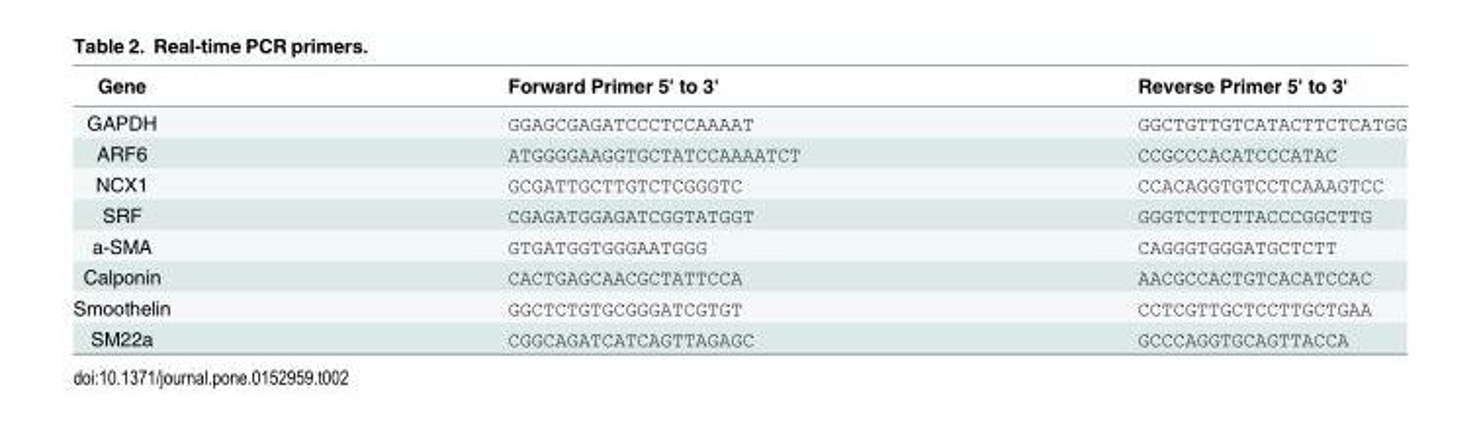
<table><thead><tr><td>Gene</td><td>Forward Primer 5&#x27; to 3&#x27;</td><td>Reverse Primer 5&#x27; to 3&#x27;</td></tr></thead><tbody><tr><td>GAPDH</td><td>GGAGCGAGATCCCTCCAAAAT</td><td>GGCTGTTGTCATACTTCTCATGG</td></tr><tr><td>ARF6</td><td>ATGGGGAAGGTGCTATCCAAAATCT</td><td>CCGCCCACATCCCATAC</td></tr><tr><td>NCX1</td><td>GCGATTGCTTGTCTCGGGTC</td><td>CCACAGGTGTCCTCAAAGTCC</td></tr><tr><td>SRF</td><td>CGAGATGGAGATCGGTATGGT</td><td>GGGTCTTCTTACCCGGCTTG</td></tr><tr><td>a-SMA</td><td>GTGATGGTGGGAATGGG</td><td>CAGGGTGGGATGCTCTT</td></tr><tr><td>Calponin</td><td>CACTGAGCAACGCTATTCCA</td><td>AACGCCACTGTCACATCCAC</td></tr><tr><td>Smoothelin</td><td>GGCTCTGTGCGGGATCGTGT</td><td>CCTCGTTGCTCCTTGCTGAA</td></tr><tr><td>SM22a</td><td>CGGCAGATCATCAGTTAGAGC</td><td>GCCCAGGTGCAGTTACCA</td></tr></tbody></table>